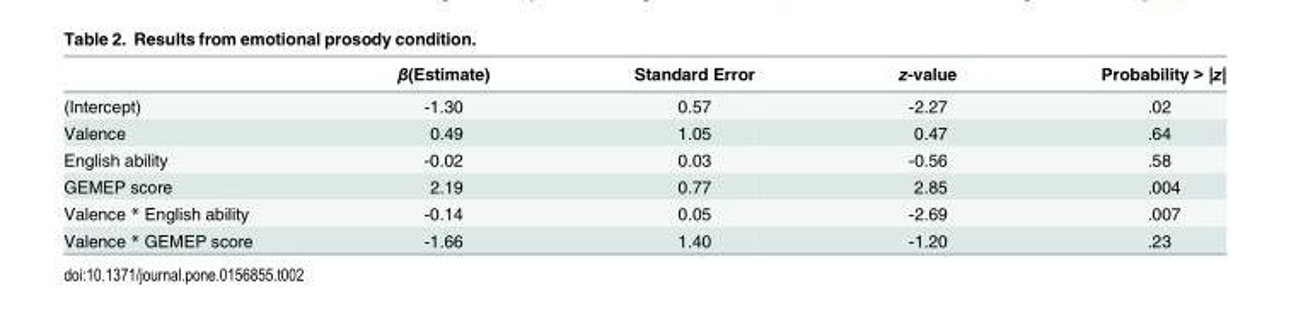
<table><thead><tr><td></td><td>β(Estimate)</td><td>Standard Error</td><td>z-value</td><td>Probability &gt; |z|</td></tr></thead><tbody><tr><td>(Intercept)</td><td>-1.30</td><td>0.57</td><td>-2.27</td><td>.02</td></tr><tr><td>Valence</td><td>0.49</td><td>1.05</td><td>0.47</td><td>.64</td></tr><tr><td>English ability</td><td>-0.02</td><td>0.03</td><td>-0.56</td><td>.58</td></tr><tr><td>GEMEP score</td><td>2.19</td><td>0.77</td><td>2.85</td><td>.004</td></tr><tr><td>Valence * English ability</td><td>-0.14</td><td>0.05</td><td>-2.69</td><td>.007</td></tr><tr><td>Valence * GEMEP score</td><td>-1.66</td><td>1.40</td><td>-1.20</td><td>.23</td></tr></tbody></table>